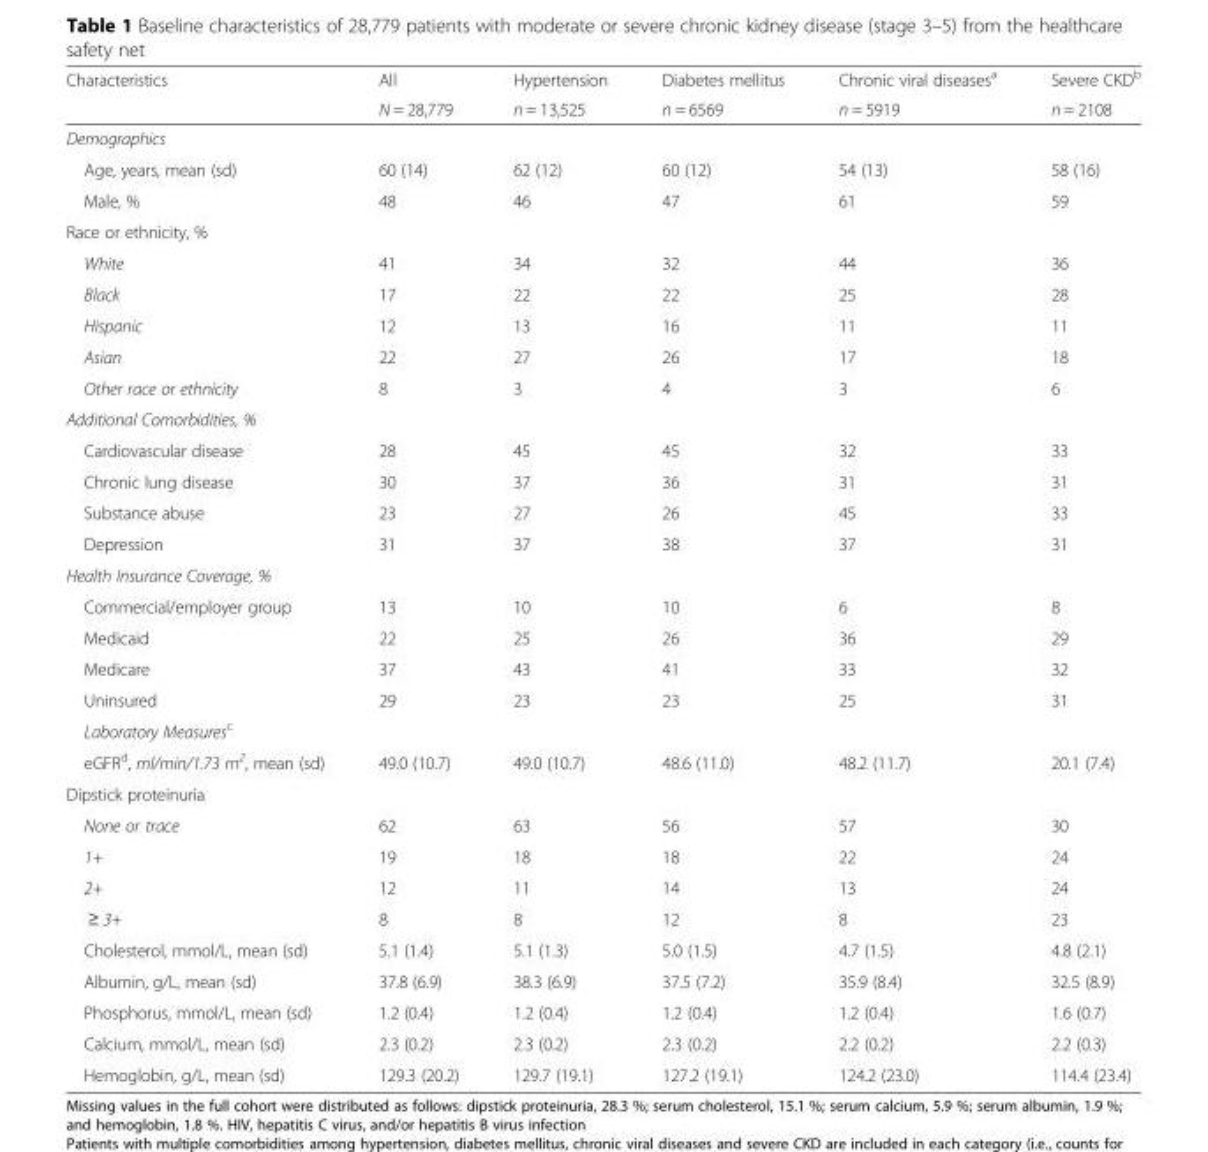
<table><thead><tr><td rowspan="2">Characteristics</td><td rowspan="2">All N = 28,779</td><td rowspan="2">Hypertension n = 13,525</td><td rowspan="2">Diabetes mellitus n = 6569</td><td rowspan="2">Chronic viral diseases<sup>a</sup> n = 5919</td><td rowspan="2">Severe CKD<sup>b</sup> n = 2108</td></tr><tr></tr></thead><tbody><tr><td colspan="6">Demographics</td></tr><tr><td>Age, years, mean (sd)</td><td>60 (14)</td><td>62 (12)</td><td>60 (12)</td><td>54 (13)</td><td>58 (16)</td></tr><tr><td>Male, %</td><td>48</td><td>46</td><td>47</td><td>61</td><td>59</td></tr><tr><td colspan="6">Race or ethnicity, %</td></tr><tr><td>White</td><td>41</td><td>34</td><td>32</td><td>44</td><td>36</td></tr><tr><td>Black</td><td>17</td><td>22</td><td>22</td><td>25</td><td>28</td></tr><tr><td>Hispanic</td><td>12</td><td>13</td><td>16</td><td>11</td><td>11</td></tr><tr><td>Asian</td><td>22</td><td>27</td><td>26</td><td>17</td><td>18</td></tr><tr><td>Other race or ethnicity</td><td>8</td><td>3</td><td>4</td><td>3</td><td>6</td></tr><tr><td colspan="6">Additional Comorbidities, %</td></tr><tr><td>Cardiovascular disease</td><td>28</td><td>45</td><td>45</td><td>32</td><td>33</td></tr><tr><td>Chronic lung disease</td><td>30</td><td>37</td><td>36</td><td>31</td><td>31</td></tr><tr><td>Substance abuse</td><td>23</td><td>27</td><td>26</td><td>45</td><td>33</td></tr><tr><td>Depression</td><td>31</td><td>37</td><td>38</td><td>37</td><td>31</td></tr><tr><td colspan="6">Health Insurance Coverage, %</td></tr><tr><td>Commercial/employer group</td><td>13</td><td>10</td><td>10</td><td>6</td><td>8</td></tr><tr><td>Medicaid</td><td>22</td><td>25</td><td>26</td><td>36</td><td>29</td></tr><tr><td>Medicare</td><td>37</td><td>43</td><td>41</td><td>33</td><td>32</td></tr><tr><td>Uninsured</td><td>29</td><td>23</td><td>23</td><td>25</td><td>31</td></tr><tr><td colspan="6">Laboratory Measures<sup>c</sup></td></tr><tr><td>eGFR<sup>d</sup>, ml/min/1.73 m<sup>2</sup>, mean (sd)</td><td>49.0 (10.7)</td><td>49.0 (10.7)</td><td>48.6 (11.0)</td><td>48.2 (11.7)</td><td>20.1 (7.4)</td></tr><tr><td colspan="6">Dipstick proteinuria</td></tr><tr><td>None or trace</td><td>62</td><td>63</td><td>56</td><td>57</td><td>30</td></tr><tr><td>1+</td><td>19</td><td>18</td><td>18</td><td>22</td><td>24</td></tr><tr><td>2+</td><td>12</td><td>11</td><td>14</td><td>13</td><td>24</td></tr><tr><td>≥ 3+</td><td>8</td><td>8</td><td>12</td><td>8</td><td>23</td></tr><tr><td>Cholesterol, mmol/L, mean (sd)</td><td>5.1 (1.4)</td><td>5.1 (1.3)</td><td>5.0 (1.5)</td><td>4.7 (1.5)</td><td>4.8 (2.1)</td></tr><tr><td>Albumin, g/L, mean (sd)</td><td>37.8 (6.9)</td><td>38.3 (6.9)</td><td>37.5 (7.2)</td><td>35.9 (8.4)</td><td>32.5 (8.9)</td></tr><tr><td>Phosphorus, mmol/L, mean (sd)</td><td>1.2 (0.4)</td><td>1.2 (0.4)</td><td>1.2 (0.4)</td><td>1.2 (0.4)</td><td>1.6 (0.7)</td></tr><tr><td>Calcium, mmol/L, mean (sd)</td><td>2.3 (0.2)</td><td>2.3 (0.2)</td><td>2.3 (0.2)</td><td>2.2 (0.2)</td><td>2.2 (0.3)</td></tr><tr><td>Hemoglobin, g/L, mean (sd)</td><td>129.3 (20.2)</td><td>129.7 (19.1)</td><td>127.2 (19.1)</td><td>124.2 (23.0)</td><td>114.4 (23.4)</td></tr></tbody></table>